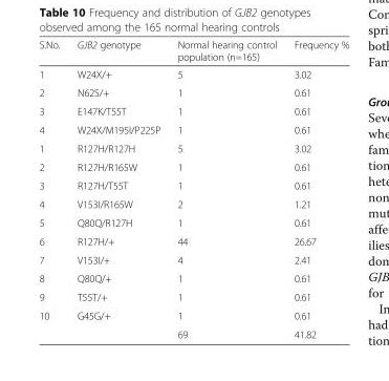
<table><thead><tr><td>S.No.</td><td>GJB2 genotype</td><td>Normal hearing control population (n=165)</td><td>Frequency %</td></tr></thead><tbody><tr><td>1</td><td>W24X/+</td><td>5</td><td>3.02</td></tr><tr><td>2</td><td>N62S/+</td><td>1</td><td>0.61</td></tr><tr><td>3</td><td>E147K/T55T</td><td>1</td><td>0.61</td></tr><tr><td>4</td><td>W24X/M195I/P225P</td><td>1</td><td>0.61</td></tr><tr><td>1</td><td>R127H/R127H</td><td>5</td><td>3.02</td></tr><tr><td>2</td><td>R127H/R165W</td><td>1</td><td>0.61</td></tr><tr><td>3</td><td>R127H/T55T</td><td>1</td><td>0.61</td></tr><tr><td>4</td><td>V153I/R165W</td><td>2</td><td>1.21</td></tr><tr><td>5</td><td>Q80Q/R127H</td><td>1</td><td>0.61</td></tr><tr><td>6</td><td>R127H/+</td><td>44</td><td>26.67</td></tr><tr><td>7</td><td>V153I/+</td><td>4</td><td>2.41</td></tr><tr><td>8</td><td>Q80Q/+</td><td>1</td><td>0.61</td></tr><tr><td>9</td><td>T55T/+</td><td>1</td><td>0.61</td></tr><tr><td rowspan="2">10</td><td>G45G/+</td><td>1</td><td>0.61</td></tr><tr><td></td><td>69</td><td>41.82</td></tr></tbody></table>